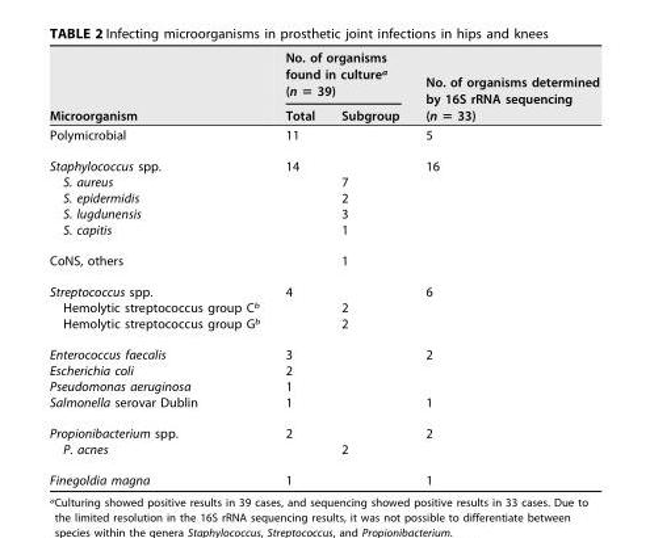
<table><thead><tr><td rowspan="2">Microorganism</td><td colspan="2">No. of organisms found in culture<sup>a</sup> (n = 39)</td><td rowspan="2">No. of organisms determined by 16S rRNA sequencing (n = 33)</td></tr><tr><td>Total</td><td>Subgroup</td></tr></thead><tbody><tr><td>Polymicrobial</td><td>11</td><td></td><td>5</td></tr><tr><td>Staphylococcus spp.</td><td>14</td><td></td><td>16</td></tr><tr><td>S. aureus</td><td></td><td>7</td><td></td></tr><tr><td>S. epidermidis</td><td></td><td>2</td><td></td></tr><tr><td>S. lugdunensis</td><td></td><td>3</td><td></td></tr><tr><td>S. capitis</td><td></td><td>1</td><td></td></tr><tr><td>CoNS, others</td><td></td><td>1</td><td></td></tr><tr><td>Streptococcus spp.</td><td>4</td><td></td><td>6</td></tr><tr><td>Hemolytic streptococcus group C<sup>b</sup></td><td></td><td>2</td><td></td></tr><tr><td>Hemolytic streptococcus group G<sup>b</sup></td><td></td><td>2</td><td></td></tr><tr><td>Enterococcus faecalis</td><td>3</td><td></td><td>2</td></tr><tr><td>Escherichia coli</td><td>2</td><td></td><td></td></tr><tr><td>Pseudomonas aeruginosa</td><td>1</td><td></td><td></td></tr><tr><td>Salmonella serovar Dublin</td><td>1</td><td></td><td>1</td></tr><tr><td>Propionibacterium spp.</td><td>2</td><td></td><td>2</td></tr><tr><td>P. acnes</td><td></td><td>2</td><td></td></tr><tr><td>Finegoldia magna</td><td>1</td><td></td><td>1</td></tr></tbody></table>